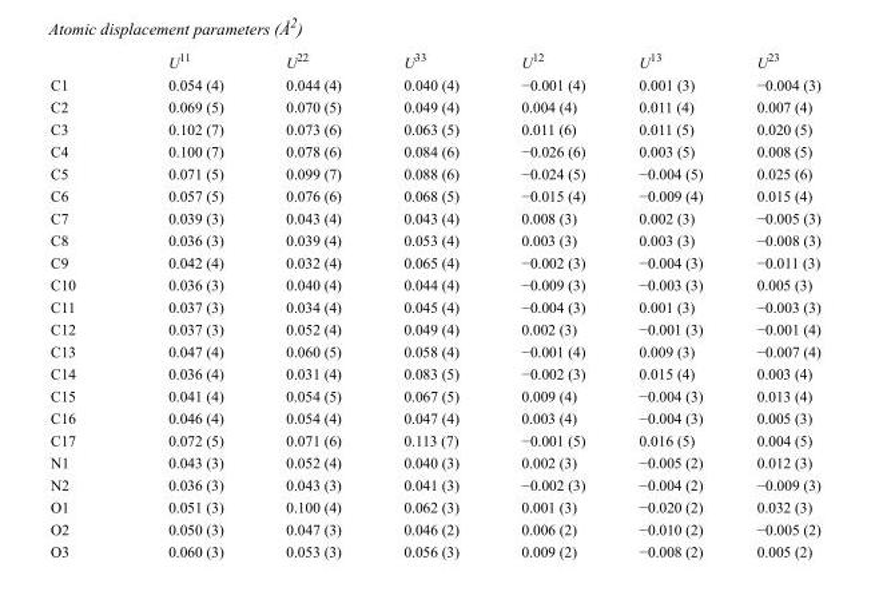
<table><thead><tr><td></td><td>U<sup>11</sup></td><td>U<sup>22</sup></td><td>U<sup>33</sup></td><td>U<sup>12</sup></td><td>U<sup>13</sup></td><td>U<sup>23</sup></td></tr></thead><tbody><tr><td>C1</td><td>0.054 (4)</td><td>0.044 (4)</td><td>0.040 (4)</td><td>−0.001 (4)</td><td>0.001 (3)</td><td>−0.004 (3)</td></tr><tr><td>C2</td><td>0.069 (5)</td><td>0.070 (5)</td><td>0.049 (4)</td><td>0.004 (4)</td><td>0.011 (4)</td><td>0.007 (4)</td></tr><tr><td>C3</td><td>0.102 (7)</td><td>0.073 (6)</td><td>0.063 (5)</td><td>0.011 (6)</td><td>0.011 (5)</td><td>0.020 (5)</td></tr><tr><td>C4</td><td>0.100 (7)</td><td>0.078 (6)</td><td>0.084 (6)</td><td>−0.026 (6)</td><td>0.003 (5)</td><td>0.008 (5)</td></tr><tr><td>C5</td><td>0.071 (5)</td><td>0.099 (7)</td><td>0.088 (6)</td><td>−0.024 (5)</td><td>−0.004 (5)</td><td>0.025 (6)</td></tr><tr><td>C6</td><td>0.057 (5)</td><td>0.076 (6)</td><td>0.068 (5)</td><td>−0.015 (4)</td><td>−0.009 (4)</td><td>0.015 (4)</td></tr><tr><td>C7</td><td>0.039 (3)</td><td>0.043 (4)</td><td>0.043 (4)</td><td>0.008 (3)</td><td>0.002 (3)</td><td>−0.005 (3)</td></tr><tr><td>C8</td><td>0.036 (3)</td><td>0.039 (4)</td><td>0.053 (4)</td><td>0.003 (3)</td><td>0.003 (3)</td><td>−0.008 (3)</td></tr><tr><td>C9</td><td>0.042 (4)</td><td>0.032 (4)</td><td>0.065 (4)</td><td>−0.002 (3)</td><td>−0.004 (3)</td><td>−0.011 (3)</td></tr><tr><td>C10</td><td>0.036 (3)</td><td>0.040 (4)</td><td>0.044 (4)</td><td>−0.009 (3)</td><td>−0.003 (3)</td><td>0.005 (3)</td></tr><tr><td>C11</td><td>0.037 (3)</td><td>0.034 (4)</td><td>0.045 (4)</td><td>−0.004 (3)</td><td>0.001 (3)</td><td>−0.003 (3)</td></tr><tr><td>C12</td><td>0.037 (3)</td><td>0.052 (4)</td><td>0.049 (4)</td><td>0.002 (3)</td><td>−0.001 (3)</td><td>−0.001 (4)</td></tr><tr><td>C13</td><td>0.047 (4)</td><td>0.060 (5)</td><td>0.058 (4)</td><td>−0.001 (4)</td><td>0.009 (3)</td><td>−0.007 (4)</td></tr><tr><td>C14</td><td>0.036 (4)</td><td>0.031 (4)</td><td>0.083 (5)</td><td>−0.002 (3)</td><td>0.015 (4)</td><td>0.003 (4)</td></tr><tr><td>C15</td><td>0.041 (4)</td><td>0.054 (5)</td><td>0.067 (5)</td><td>0.009 (4)</td><td>−0.004 (3)</td><td>0.013 (4)</td></tr><tr><td>C16</td><td>0.046 (4)</td><td>0.054 (4)</td><td>0.047 (4)</td><td>0.003 (4)</td><td>−0.004 (3)</td><td>0.005 (3)</td></tr><tr><td>C17</td><td>0.072 (5)</td><td>0.071 (6)</td><td>0.113 (7)</td><td>−0.001 (5)</td><td>0.016 (5)</td><td>0.004 (5)</td></tr><tr><td>N1</td><td>0.043 (3)</td><td>0.052 (4)</td><td>0.040 (3)</td><td>0.002 (3)</td><td>−0.005 (2)</td><td>0.012 (3)</td></tr><tr><td>N2</td><td>0.036 (3)</td><td>0.043 (3)</td><td>0.041 (3)</td><td>−0.002 (3)</td><td>−0.004 (2)</td><td>−0.009 (3)</td></tr><tr><td>O1</td><td>0.051 (3)</td><td>0.100 (4)</td><td>0.062 (3)</td><td>0.001 (3)</td><td>−0.020 (2)</td><td>0.032 (3)</td></tr><tr><td>O2</td><td>0.050 (3)</td><td>0.047 (3)</td><td>0.046 (2)</td><td>0.006 (2)</td><td>−0.010 (2)</td><td>−0.005 (2)</td></tr><tr><td>O3</td><td>0.060 (3)</td><td>0.053 (3)</td><td>0.056 (3)</td><td>0.009 (2)</td><td>−0.008 (2)</td><td>0.005 (2)</td></tr></tbody></table>